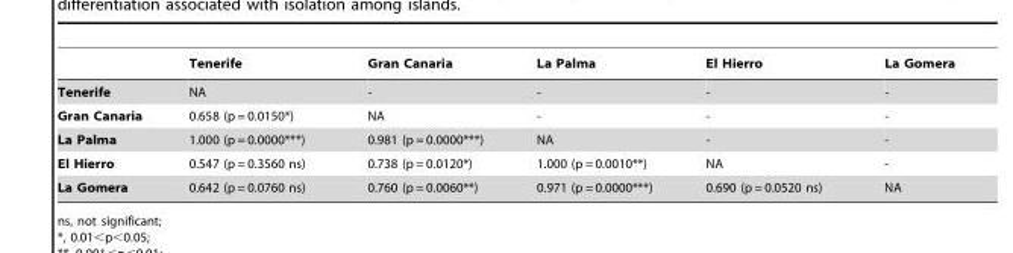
<table><thead><tr><td></td><td>Tenerife</td><td>Gran Canaria</td><td>La Palma</td><td>El Hierro</td><td>La Gomera</td></tr></thead><tbody><tr><td>Tenerife</td><td>NA</td><td>-</td><td>-</td><td>-</td><td>-</td></tr><tr><td>Gran Canaria</td><td>0.658 (p = 0.0150*)</td><td>NA</td><td>-</td><td>-</td><td>-</td></tr><tr><td>La Palma</td><td>1.000 (p = 0.0000***)</td><td>0.981 (p = 0.0000***)</td><td>NA</td><td>-</td><td>-</td></tr><tr><td>El Hierro</td><td>0.547 (p = 0.3560 ns)</td><td>0.738 (p = 0.0120*)</td><td>1.000 (p = 0.0010**)</td><td>NA</td><td>-</td></tr><tr><td>La Gomera</td><td>0.642 (p = 0.0760 ns)</td><td>0.760 (p = 0.0060**)</td><td>0.971 (p = 0.0000***)</td><td>0.690 (p = 0.0520 ns)</td><td>NA</td></tr></tbody></table>